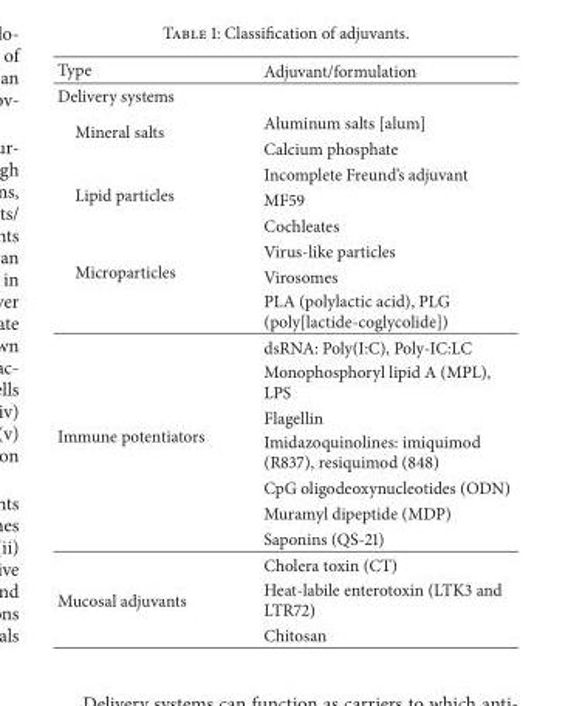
<table><thead><tr><td>Type</td><td>Adjuvant/formulation</td></tr></thead><tbody><tr><td colspan="2">Delivery systems</td></tr><tr><td rowspan="2">Mineral salts</td><td>Aluminum salts [alum]</td></tr><tr><td>Calcium phosphate</td></tr><tr><td rowspan="3">Lipid particles</td><td>Incomplete Freund’s adjuvant</td></tr><tr><td>MF59</td></tr><tr><td>Cochleates</td></tr><tr><td rowspan="3">Microparticles</td><td>Virus-like particles</td></tr><tr><td>Virosomes</td></tr><tr><td>PLA (polylactic acid), PLG (poly[lactide-coglycolide])</td></tr><tr><td rowspan="7">Immune potentiators</td><td>dsRNA: Poly(I:C), Poly-IC:LC</td></tr><tr><td>Monophosphoryl lipid A (MPL), LPS</td></tr><tr><td>Flagellin</td></tr><tr><td>Imidazoquinolines: imiquimod (R837), resiquimod (848)</td></tr><tr><td>CpG oligodeoxynucleotides (ODN)</td></tr><tr><td>Muramyl dipeptide (MDP)</td></tr><tr><td>Saponins (QS-21)</td></tr><tr><td rowspan="3">Mucosal adjuvants</td><td>Cholera toxin (CT)</td></tr><tr><td>Heat-labile enterotoxin (LTK3 and LTR72)</td></tr><tr><td>Chitosan</td></tr></tbody></table>